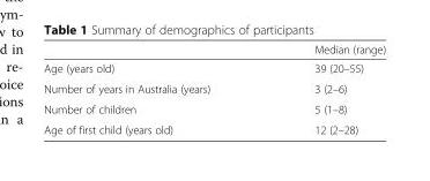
<table><thead><tr><td></td><td>Median (range)</td></tr></thead><tbody><tr><td>Age (years old)</td><td>39 (20–55)</td></tr><tr><td>Number of years in Australia (years)</td><td>3 (2–6)</td></tr><tr><td>Number of children</td><td>5 (1–8)</td></tr><tr><td>Age of first child (years old)</td><td>12 (2–28)</td></tr></tbody></table>